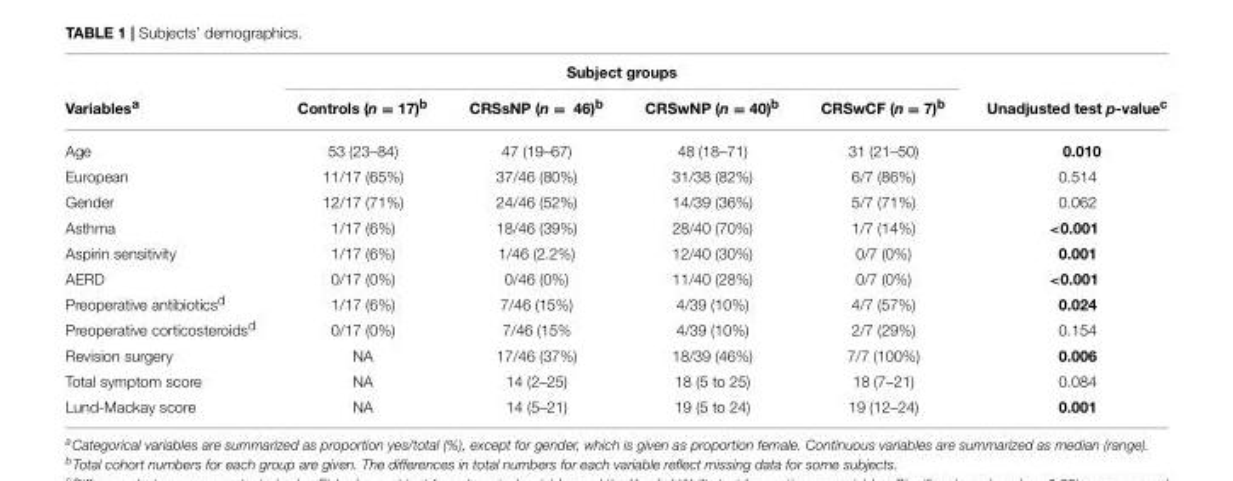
<table><thead><tr><td rowspan="2">Variables<sup>a</sup></td><td colspan="4">Subject groups</td><td rowspan="2">Unadjusted test p-value<sup>c</sup></td></tr><tr><td>Controls (n = 17)<sup>b</sup></td><td>CRSsNP (n = 46)<sup>b</sup></td><td>CRSwNP (n = 40)<sup>b</sup></td><td>CRSwCF (n = 7)<sup>b</sup></td></tr></thead><tbody><tr><td>Age</td><td>53 (23–84)</td><td>47 (19–67)</td><td>48 (18–71)</td><td>31 (21–50)</td><td>0.010</td></tr><tr><td>European</td><td>11/17 (65%)</td><td>37/46 (80%)</td><td>31/38 (82%)</td><td>6/7 (86%)</td><td>0.514</td></tr><tr><td>Gender</td><td>12/17 (71%)</td><td>24/46 (52%)</td><td>14/39 (36%)</td><td>5/7 (71%)</td><td>0.062</td></tr><tr><td>Asthma</td><td>1/17 (6%)</td><td>18/46 (39%)</td><td>28/40 (70%)</td><td>1/7 (14%)</td><td>&lt;0.001</td></tr><tr><td>Aspirin sensitivity</td><td>1/17 (6%)</td><td>1/46 (2.2%)</td><td>12/40 (30%)</td><td>0/7 (0%)</td><td>0.001</td></tr><tr><td>AERD</td><td>0/17 (0%)</td><td>0/46 (0%)</td><td>11/40 (28%)</td><td>0/7 (0%)</td><td>&lt;0.001</td></tr><tr><td>Preoperative antibiotics<sup>d</sup></td><td>1/17 (6%)</td><td>7/46 (15%)</td><td>4/39 (10%)</td><td>4/7 (57%)</td><td>0.024</td></tr><tr><td>Preoperative corticosteroids<sup>d</sup></td><td>0/17 (0%)</td><td>7/46 (15%</td><td>4/39 (10%)</td><td>2/7 (29%)</td><td>0.154</td></tr><tr><td>Revision surgery</td><td>NA</td><td>17/46 (37%)</td><td>18/39 (46%)</td><td>7/7 (100%)</td><td>0.006</td></tr><tr><td>Total symptom score</td><td>NA</td><td>14 (2–25)</td><td>18 (5 to 25)</td><td>18 (7–21)</td><td>0.084</td></tr><tr><td>Lund-Mackay score</td><td>NA</td><td>14 (5–21)</td><td>19 (5 to 24)</td><td>19 (12–24)</td><td>0.001</td></tr></tbody></table>